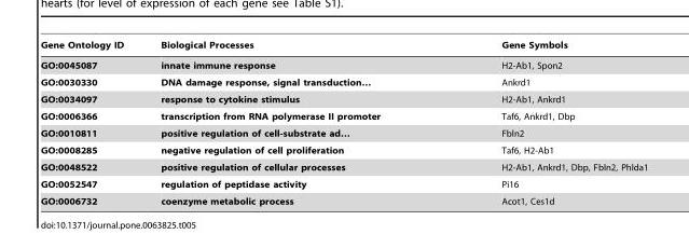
<table><thead><tr><td>Gene Ontology ID</td><td>Biological Processes</td><td>Gene Symbols</td></tr></thead><tbody><tr><td>GO:0045087</td><td>innate immune response</td><td>H2-Ab1, Spon2</td></tr><tr><td>GO:0030330</td><td>DNA damage response, signal transduction…</td><td>Ankrd1</td></tr><tr><td>GO:0034097</td><td>response to cytokine stimulus</td><td>H2-Ab1, Ankrd1</td></tr><tr><td>GO:0006366</td><td>transcription from RNA polymerase II promoter</td><td>Taf6, Ankrd1, Dbp</td></tr><tr><td>GO:0010811</td><td>positive regulation of cell-substrate ad…</td><td>Fbln2</td></tr><tr><td>GO:0008285</td><td>negative regulation of cell proliferation</td><td>Taf6, H2-Ab1</td></tr><tr><td>GO:0048522</td><td>positive regulation of cellular processes</td><td>H2-Ab1, Ankrd1, Dbp, Fbln2, Phlda1</td></tr><tr><td>GO:0052547</td><td>regulation of peptidase activity</td><td>Pi16</td></tr><tr><td>GO:0006732</td><td>coenzyme metabolic process</td><td>Acot1, Ces1d</td></tr></tbody></table>